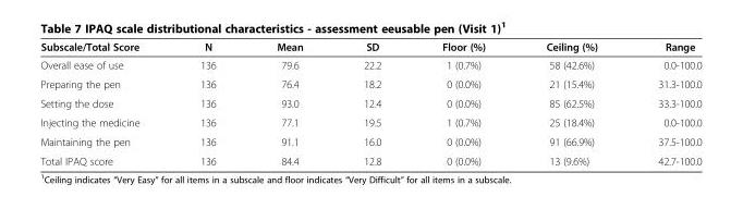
<table><thead><tr><td>Subscale/Total Score</td><td>N</td><td>Mean</td><td>SD</td><td>Floor (%)</td><td>Ceiling (%)</td><td>Range</td></tr></thead><tbody><tr><td>Overall ease of use</td><td>136</td><td>79.6</td><td>22.2</td><td>1 (0.7%)</td><td>58 (42.6%)</td><td>0.0-100.0</td></tr><tr><td>Preparing the pen</td><td>136</td><td>76.4</td><td>18.2</td><td>0 (0.0%)</td><td>21 (15.4%)</td><td>31.3-100.0</td></tr><tr><td>Setting the dose</td><td>136</td><td>93.0</td><td>12.4</td><td>0 (0.0%)</td><td>85 (62.5%)</td><td>33.3-100.0</td></tr><tr><td>Injecting the medicine</td><td>136</td><td>77.1</td><td>19.5</td><td>1 (0.7%)</td><td>25 (18.4%)</td><td>0.0-100.0</td></tr><tr><td>Maintaining the pen</td><td>136</td><td>91.1</td><td>16.0</td><td>0 (0.0%)</td><td>91 (66.9%)</td><td>37.5-100.0</td></tr><tr><td>Total IPAQ score</td><td>136</td><td>84.4</td><td>12.8</td><td>0 (0.0%)</td><td>13 (9.6%)</td><td>42.7-100.0</td></tr></tbody></table>